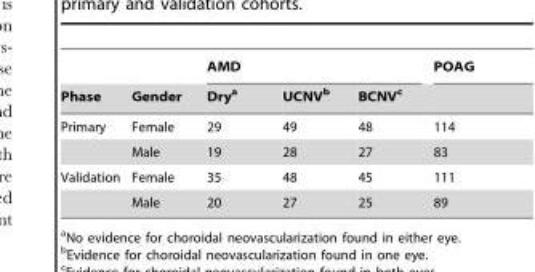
<table><thead><tr><td rowspan="2">Phase</td><td rowspan="2">Gender</td><td colspan="3">AMD</td><td rowspan="2">POAG</td></tr><tr><td>Dry<sup>a</sup></td><td>UCNV<sup>b</sup></td><td>BCNV<sup>c</sup></td></tr></thead><tbody><tr><td rowspan="2">Primary</td><td>Female</td><td>29</td><td>49</td><td>48</td><td>114</td></tr><tr><td>Male</td><td>19</td><td>28</td><td>27</td><td>83</td></tr><tr><td rowspan="2">Validation</td><td>Female</td><td>35</td><td>48</td><td>45</td><td>111</td></tr><tr><td>Male</td><td>20</td><td>27</td><td>25</td><td>89</td></tr></tbody></table>